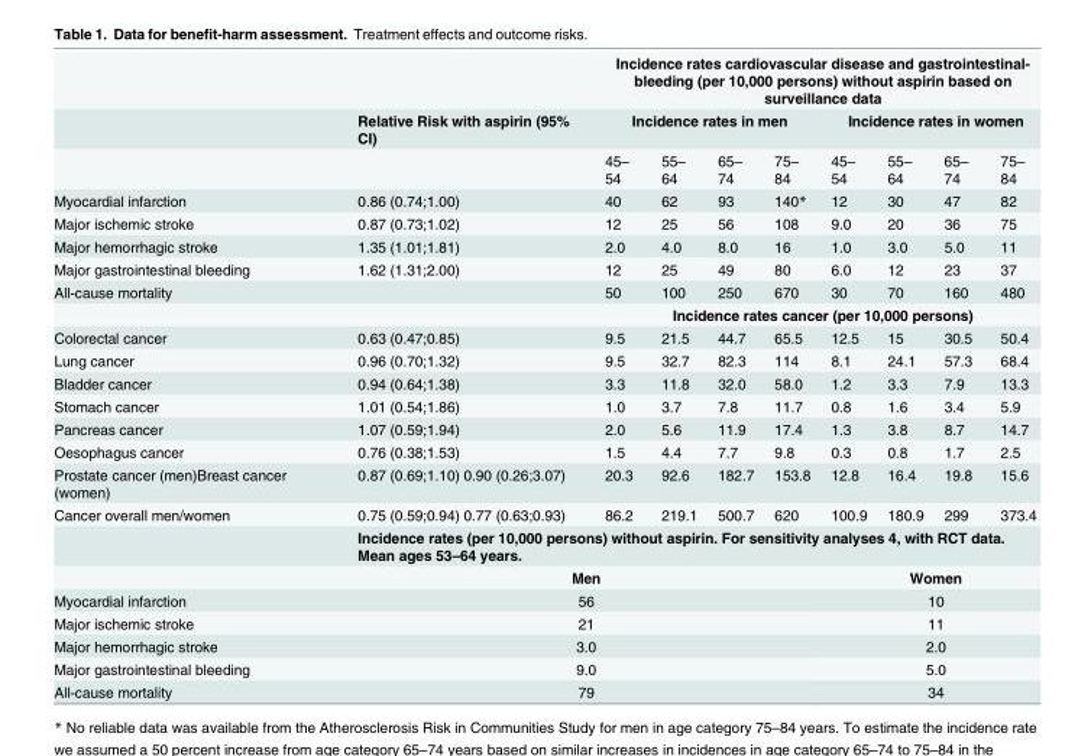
<table><thead><tr><td rowspan="3"></td><td rowspan="3">Relative Risk with aspirin (95% CI)</td><td colspan="8">Incidence rates cardiovascular disease and gastrointestinal- bleeding (per 10,000 persons) without aspirin based on surveillance data</td></tr><tr><td colspan="4">Incidence rates in men</td><td colspan="4">Incidence rates in women</td></tr><tr><td>45– 54</td><td>55– 64</td><td>65– 74</td><td>75– 84</td><td>45– 54</td><td>55– 64</td><td>65– 74</td><td>75– 84</td></tr></thead><tbody><tr><td>Myocardial infarction</td><td>0.86 (0.74;1.00)</td><td>40</td><td>62</td><td>93</td><td>140*</td><td>12</td><td>30</td><td>47</td><td>82</td></tr><tr><td>Major ischemic stroke</td><td>0.87 (0.73;1.02)</td><td>12</td><td>25</td><td>56</td><td>108</td><td>9.0</td><td>20</td><td>36</td><td>75</td></tr><tr><td>Major hemorrhagic stroke</td><td>1.35 (1.01;1.81)</td><td>2.0</td><td>4.0</td><td>8.0</td><td>16</td><td>1.0</td><td>3.0</td><td>5.0</td><td>11</td></tr><tr><td>Major gastrointestinal bleeding</td><td>1.62 (1.31;2.00)</td><td>12</td><td>25</td><td>49</td><td>80</td><td>6.0</td><td>12</td><td>23</td><td>37</td></tr><tr><td rowspan="2">All-cause mortality</td><td></td><td>50</td><td>100</td><td>250</td><td>670</td><td>30</td><td>70</td><td>160</td><td>480</td></tr><tr><td></td><td colspan="8">Incidence rates cancer (per 10,000 persons)</td></tr><tr><td>Colorectal cancer</td><td>0.63 (0.47;0.85)</td><td>9.5</td><td>21.5</td><td>44.7</td><td>65.5</td><td>12.5</td><td>15</td><td>30.5</td><td>50.4</td></tr><tr><td>Lung cancer</td><td>0.96 (0.70;1.32)</td><td>9.5</td><td>32.7</td><td>82.3</td><td>114</td><td>8.1</td><td>24.1</td><td>57.3</td><td>68.4</td></tr><tr><td>Bladder cancer</td><td>0.94 (0.64;1.38)</td><td>3.3</td><td>11.8</td><td>32.0</td><td>58.0</td><td>1.2</td><td>3.3</td><td>7.9</td><td>13.3</td></tr><tr><td>Stomach cancer</td><td>1.01 (0.54;1.86)</td><td>1.0</td><td>3.7</td><td>7.8</td><td>11.7</td><td>0.8</td><td>1.6</td><td>3.4</td><td>5.9</td></tr><tr><td>Pancreas cancer</td><td>1.07 (0.59;1.94)</td><td>2.0</td><td>5.6</td><td>11.9</td><td>17.4</td><td>1.3</td><td>3.8</td><td>8.7</td><td>14.7</td></tr><tr><td>Oesophagus cancer</td><td>0.76 (0.38;1.53)</td><td>1.5</td><td>4.4</td><td>7.7</td><td>9.8</td><td>0.3</td><td>0.8</td><td>1.7</td><td>2.5</td></tr><tr><td>Prostate cancer (men)Breast cancer (women)</td><td>0.87 (0.69;1.10) 0.90 (0.26;3.07)</td><td>20.3</td><td>92.6</td><td>182.7</td><td>153.8</td><td>12.8</td><td>16.4</td><td>19.8</td><td>15.6</td></tr><tr><td rowspan="3">Cancer overall men/women</td><td>0.75 (0.59;0.94) 0.77 (0.63;0.93)</td><td>86.2</td><td>219.1</td><td>500.7</td><td>620</td><td>100.9</td><td>180.9</td><td>299</td><td>373.4</td></tr><tr><td colspan="9">Incidence rates (per 10,000 persons) without aspirin. For sensitivity analyses 4, with RCT data. Mean ages 53–64 years.</td></tr><tr><td colspan="5">Men</td><td colspan="4">Women</td></tr><tr><td>Myocardial infarction</td><td colspan="5">56</td><td colspan="4">10</td></tr><tr><td>Major ischemic stroke</td><td colspan="5">21</td><td colspan="4">11</td></tr><tr><td>Major hemorrhagic stroke</td><td colspan="5">3.0</td><td colspan="4">2.0</td></tr><tr><td>Major gastrointestinal bleeding</td><td colspan="5">9.0</td><td colspan="4">5.0</td></tr><tr><td>All-cause mortality</td><td colspan="5">79</td><td colspan="4">34</td></tr></tbody></table>